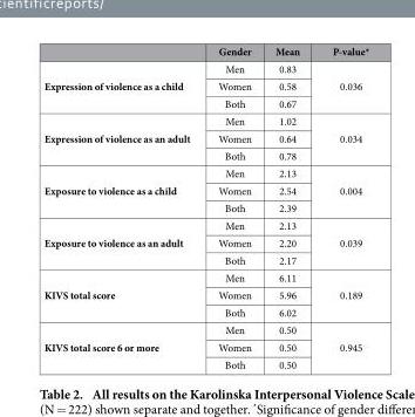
<table><thead><tr><td></td><td>Gender</td><td>Mean</td><td>P-value*</td></tr></thead><tbody><tr><td rowspan="3">Expression of violence as a child</td><td>Men</td><td>0.83</td><td rowspan="3">0.036</td></tr><tr><td>Women</td><td>0.58</td></tr><tr><td>Both</td><td>0.67</td></tr><tr><td rowspan="3">Expression of violence as an adult</td><td>Men</td><td>1.02</td><td rowspan="3">0.034</td></tr><tr><td>Women</td><td>0.64</td></tr><tr><td>Both</td><td>0.78</td></tr><tr><td rowspan="3">Exposure to violence as a child</td><td>Men</td><td>2.13</td><td rowspan="3">0.004</td></tr><tr><td>Women</td><td>2.54</td></tr><tr><td>Both</td><td>2.39</td></tr><tr><td rowspan="3">Exposure to violence as an adult</td><td>Men</td><td>2.13</td><td rowspan="3">0.039</td></tr><tr><td>Women</td><td>2.20</td></tr><tr><td>Both</td><td>2.17</td></tr><tr><td rowspan="3">KIVS total score</td><td>Men</td><td>6.11</td><td rowspan="3">0.189</td></tr><tr><td>Women</td><td>5.96</td></tr><tr><td>Both</td><td>6.02</td></tr><tr><td rowspan="3">KIVS total score 6 or more</td><td>Men</td><td>0.50</td><td rowspan="3">0.945</td></tr><tr><td>Women</td><td>0.50</td></tr><tr><td>Both</td><td>0.50</td></tr></tbody></table>